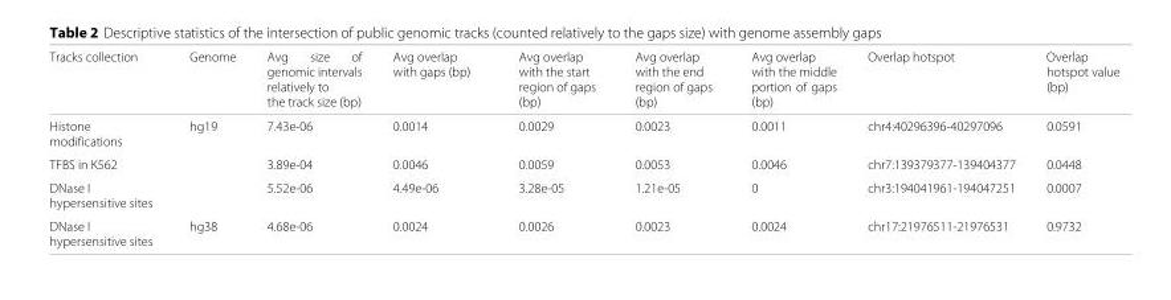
<table><thead><tr><td>Tracks collection</td><td>Genome</td><td>Avg size of genomic intervals relatively to the track size (bp)</td><td>Avg overlap with gaps (bp)</td><td>Avg overlap with the start region of gaps (bp)</td><td>Avg overlap with the end region of gaps (bp)</td><td>Avg overlap with the middle portion of gaps (bp)</td><td>Overlap hotspot</td><td>Overlap hotspot value (bp)</td></tr></thead><tbody><tr><td>Histone modifications</td><td>hg19</td><td>7.43e-06</td><td>0.0014</td><td>0.0029</td><td>0.0023</td><td>0.0011</td><td>chr4:40296396-40297096</td><td>0.0591</td></tr><tr><td>TFBS in K562</td><td></td><td>3.89e-04</td><td>0.0046</td><td>0.0059</td><td>0.0053</td><td>0.0046</td><td>chr7:139379377-139404377</td><td>0.0448</td></tr><tr><td>DNase I hypersensitive sites</td><td></td><td>5.52e-06</td><td>4.49e-06</td><td>3.28e-05</td><td>1.21e-05</td><td>0</td><td>chr3:194041961-194047251</td><td>0.0007</td></tr><tr><td>DNase I hypersensitive sites</td><td>hg38</td><td>4.68e-06</td><td>0.0024</td><td>0.0026</td><td>0.0023</td><td>0.0024</td><td>chr17:21976511-21976531</td><td>0.9732</td></tr></tbody></table>